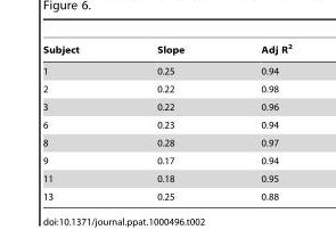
<table><thead><tr><td>Subject</td><td>Slope</td><td>Adj R<sup>2</sup></td></tr></thead><tbody><tr><td>1</td><td>0.25</td><td>0.94</td></tr><tr><td>2</td><td>0.22</td><td>0.98</td></tr><tr><td>3</td><td>0.22</td><td>0.96</td></tr><tr><td>6</td><td>0.23</td><td>0.94</td></tr><tr><td>8</td><td>0.28</td><td>0.97</td></tr><tr><td>9</td><td>0.17</td><td>0.94</td></tr><tr><td>11</td><td>0.18</td><td>0.95</td></tr><tr><td>13</td><td>0.25</td><td>0.88</td></tr></tbody></table>